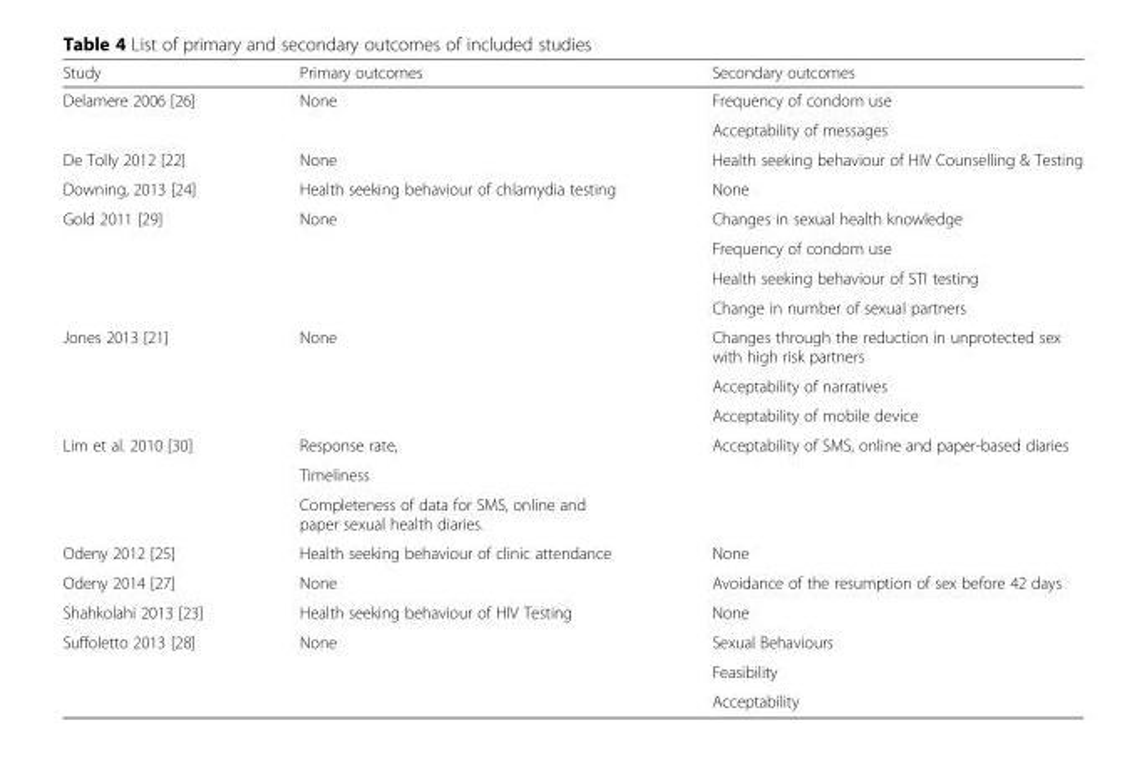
<table><thead><tr><td>Study</td><td>Primary outcomes</td><td>Secondary outcomes</td></tr></thead><tbody><tr><td rowspan="2">Delamere 2006 [26]</td><td rowspan="2">None</td><td>Frequency of condom use</td></tr><tr><td>Acceptability of messages</td></tr><tr><td>De Tolly 2012 [22]</td><td>None</td><td>Health seeking behaviour of HIV Counselling &amp; Testing</td></tr><tr><td>Downing, 2013 [24]</td><td>Health seeking behaviour of chlamydia testing</td><td>None</td></tr><tr><td rowspan="4">Gold 2011 [29]</td><td rowspan="4">None</td><td>Changes in sexual health knowledge</td></tr><tr><td>Frequency of condom use</td></tr><tr><td>Health seeking behaviour of STI testing</td></tr><tr><td>Change in number of sexual partners</td></tr><tr><td rowspan="3">Jones 2013 [21]</td><td rowspan="3">None</td><td>Changes through the reduction in unprotected sex with high risk partners</td></tr><tr><td>Acceptability of narratives</td></tr><tr><td>Acceptability of mobile device</td></tr><tr><td rowspan="3">Lim et al. 2010 [30]</td><td>Response rate,</td><td rowspan="3">Acceptability of SMS, online and paper-based diaries</td></tr><tr><td>Timeliness</td></tr><tr><td>Completeness of data for SMS, online and paper sexual health diaries.</td></tr><tr><td>Odeny 2012 [25]</td><td>Health seeking behaviour of clinic attendance</td><td>None</td></tr><tr><td>Odeny 2014 [27]</td><td>None</td><td>Avoidance of the resumption of sex before 42 days</td></tr><tr><td>Shahkolahi 2013 [23]</td><td>Health seeking behaviour of HIV Testing</td><td>None</td></tr><tr><td rowspan="3">Suffoletto 2013 [28]</td><td rowspan="3">None</td><td>Sexual Behaviours</td></tr><tr><td>Feasibility</td></tr><tr><td>Acceptability</td></tr></tbody></table>